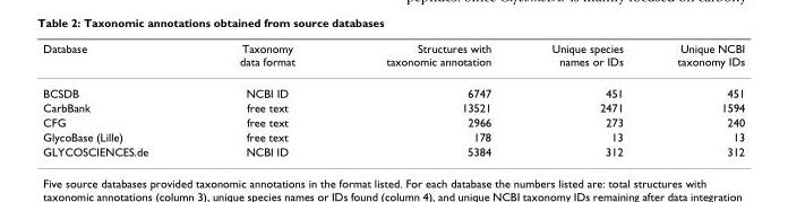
<table><thead><tr><td>Database</td><td>Taxonomy data format</td><td>Structures with taxonomic annotation</td><td>Unique species names or IDs</td><td>Unique NCBI taxonomy IDs</td></tr></thead><tbody><tr><td>BCSDB</td><td>NCBI ID</td><td>6747</td><td>451</td><td>451</td></tr><tr><td>CarbBank</td><td>free text</td><td>13521</td><td>2471</td><td>1594</td></tr><tr><td>CFG</td><td>free text</td><td>2966</td><td>273</td><td>240</td></tr><tr><td>GlycoBase (Lille)</td><td>free text</td><td>178</td><td>13</td><td>13</td></tr><tr><td>GLYCOSCIENCES.de</td><td>NCBI ID</td><td>5384</td><td>312</td><td>312</td></tr></tbody></table>